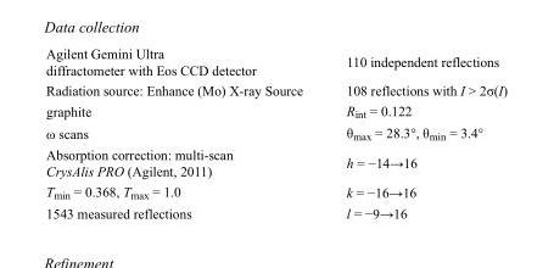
<table><tbody><tr><td>Agilent Gemini Ultra diffractometer with Eos CCD detector</td><td>110 independent reflections</td></tr><tr><td>Radiation source: Enhance (Mo) X-ray Source</td><td>108 reflections with I &gt; 2σ(I)</td></tr><tr><td>graphite</td><td>R<sub>int</sub> = 0.122</td></tr><tr><td>ω scans</td><td>θ<sub>max</sub> = 28.3°, θ<sub>min</sub> = 3.4°</td></tr><tr><td>Absorption correction: multi-scan CrysAlis PRO (Agilent, 2011)</td><td>h = −14→16</td></tr><tr><td>T<sub>min</sub> = 0.368, T<sub>max</sub> = 1.0</td><td>k = −16→16</td></tr><tr><td>1543 measured reflections</td><td>l = −9→16</td></tr></tbody></table>